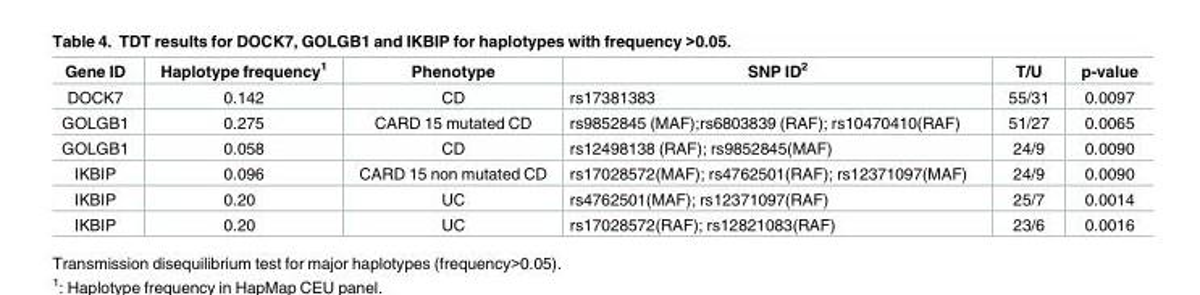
<table><thead><tr><td>Gene ID</td><td>Haplotype frequency<sup>1</sup></td><td>Phenotype</td><td>SNP ID<sup>2</sup></td><td>T/U</td><td>p-value</td></tr></thead><tbody><tr><td>DOCK7</td><td>0.142</td><td>CD</td><td>rs17381383</td><td>55/31</td><td>0.0097</td></tr><tr><td>GOLGB1</td><td>0.275</td><td>CARD 15 mutated CD</td><td>rs9852845 (MAF);rs6803839 (RAF); rs10470410(RAF)</td><td>51/27</td><td>0.0065</td></tr><tr><td>GOLGB1</td><td>0.058</td><td>CD</td><td>rs12498138 (RAF); rs9852845(MAF)</td><td>24/9</td><td>0.0090</td></tr><tr><td>IKBIP</td><td>0.096</td><td>CARD 15 non mutated CD</td><td>rs17028572(MAF); rs4762501(RAF); rs12371097(MAF)</td><td>24/9</td><td>0.0090</td></tr><tr><td>IKBIP</td><td>0.20</td><td>UC</td><td>rs4762501(MAF); rs12371097(RAF)</td><td>25/7</td><td>0.0014</td></tr><tr><td>IKBIP</td><td>0.20</td><td>UC</td><td>rs17028572(RAF); rs12821083(RAF)</td><td>23/6</td><td>0.0016</td></tr></tbody></table>